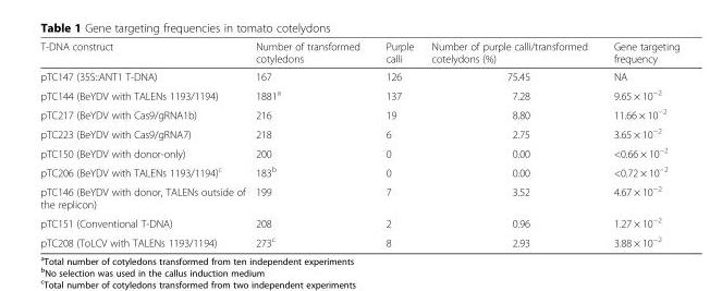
<table><thead><tr><td>T-DNA construct</td><td>Number of transformed cotyledons</td><td>Purple calli</td><td>Number of purple calli/transformed cotelydons (%)</td><td>Gene targeting frequency</td></tr></thead><tbody><tr><td>pTC147 (35S::ANT1 T-DNA)</td><td>167</td><td>126</td><td>75.45</td><td>NA</td></tr><tr><td>pTC144 (BeYDV with TALENs 1193/1194)</td><td>1881<sup>a</sup></td><td>137</td><td>7.28</td><td>9.65 × 10<sup>−2</sup></td></tr><tr><td>pTC217 (BeYDV with Cas9/gRNA1b)</td><td>216</td><td>19</td><td>8.80</td><td>11.66 × 10<sup>−2</sup></td></tr><tr><td>pTC223 (BeYDV with Cas9/gRNA7)</td><td>218</td><td>6</td><td>2.75</td><td>3.65 × 10<sup>−2</sup></td></tr><tr><td>pTC150 (BeYDV with donor-only)</td><td>200</td><td>0</td><td>0.00</td><td>&lt;0.66 × 10<sup>−2</sup></td></tr><tr><td>pTC206 (BeYDV with TALENs 1193/1194)<sup>c</sup></td><td>183<sup>b</sup></td><td>0</td><td>0.00</td><td>&lt;0.72 × 10<sup>−2</sup></td></tr><tr><td>pTC146 (BeYDV with donor, TALENs outside of the replicon)</td><td>199</td><td>7</td><td>3.52</td><td>4.67 × 10<sup>−2</sup></td></tr><tr><td>pTC151 (Conventional T-DNA)</td><td>208</td><td>2</td><td>0.96</td><td>1.27 × 10<sup>−2</sup></td></tr><tr><td>pTC208 (ToLCV with TALENs 1193/1194)</td><td>273<sup>c</sup></td><td>8</td><td>2.93</td><td>3.88 × 10<sup>−2</sup></td></tr></tbody></table>